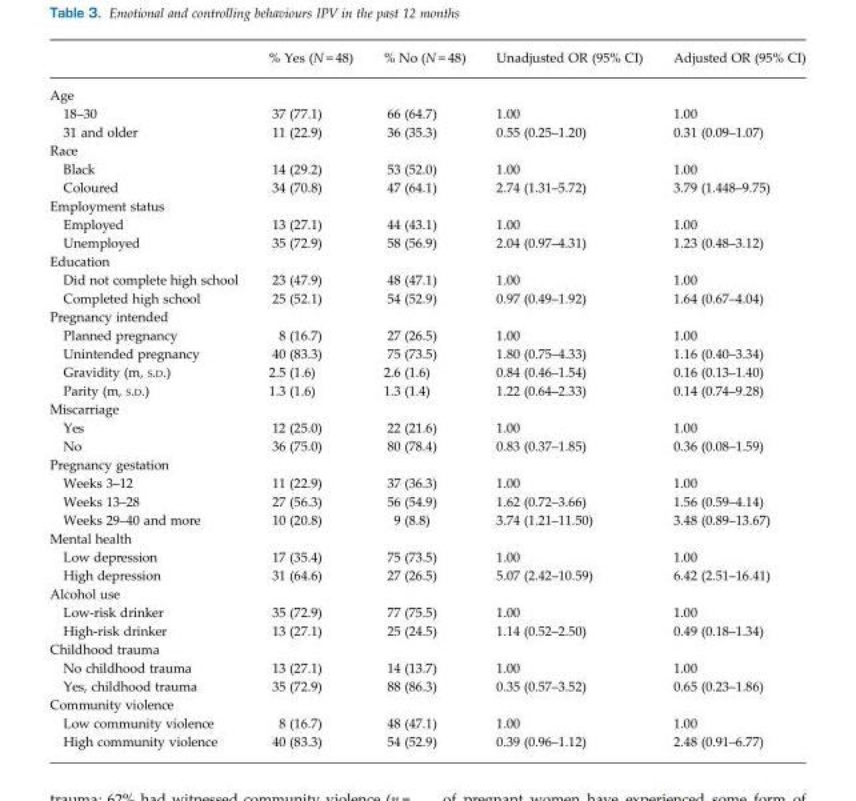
<table><thead><tr><td></td><td>% Yes (N = 48)</td><td>% No (N = 48)</td><td>Unadjusted OR (95% CI)</td><td>Adjusted OR (95% CI)</td></tr></thead><tbody><tr><td colspan="5">Age</td></tr><tr><td>18–30</td><td>37 (77.1)</td><td>66 (64.7)</td><td>1.00</td><td>1.00</td></tr><tr><td>31 and older</td><td>11 (22.9)</td><td>36 (35.3)</td><td>0.55 (0.25–1.20)</td><td>0.31 (0.09–1.07)</td></tr><tr><td colspan="5">Race</td></tr><tr><td>Black</td><td>14 (29.2)</td><td>53 (52.0)</td><td>1.00</td><td>1.00</td></tr><tr><td>Coloured</td><td>34 (70.8)</td><td>47 (64.1)</td><td>2.74 (1.31–5.72)</td><td>3.79 (1.448–9.75)</td></tr><tr><td colspan="5">Employment status</td></tr><tr><td>Employed</td><td>13 (27.1)</td><td>44 (43.1)</td><td>1.00</td><td>1.00</td></tr><tr><td>Unemployed</td><td>35 (72.9)</td><td>58 (56.9)</td><td>2.04 (0.97–4.31)</td><td>1.23 (0.48–3.12)</td></tr><tr><td colspan="5">Education</td></tr><tr><td>Did not complete high school</td><td>23 (47.9)</td><td>48 (47.1)</td><td>1.00</td><td>1.00</td></tr><tr><td>Completed high school</td><td>25 (52.1)</td><td>54 (52.9)</td><td>0.97 (0.49–1.92)</td><td>1.64 (0.67–4.04)</td></tr><tr><td colspan="5">Pregnancy intended</td></tr><tr><td>Planned pregnancy</td><td>8 (16.7)</td><td>27 (26.5)</td><td>1.00</td><td>1.00</td></tr><tr><td>Unintended pregnancy</td><td>40 (83.3)</td><td>75 (73.5)</td><td>1.80 (0.75–4.33)</td><td>1.16 (0.40–3.34)</td></tr><tr><td>Gravidity (m, S.D.)</td><td>2.5 (1.6)</td><td>2.6 (1.6)</td><td>0.84 (0.46–1.54)</td><td>0.16 (0.13–1.40)</td></tr><tr><td>Parity (m, S.D.)</td><td>1.3 (1.6)</td><td>1.3 (1.4)</td><td>1.22 (0.64–2.33)</td><td>0.14 (0.74–9.28)</td></tr><tr><td colspan="5">Miscarriage</td></tr><tr><td>Yes</td><td>12 (25.0)</td><td>22 (21.6)</td><td>1.00</td><td>1.00</td></tr><tr><td>No</td><td>36 (75.0)</td><td>80 (78.4)</td><td>0.83 (0.37–1.85)</td><td>0.36 (0.08–1.59)</td></tr><tr><td colspan="5">Pregnancy gestation</td></tr><tr><td>Weeks 3–12</td><td>11 (22.9)</td><td>37 (36.3)</td><td>1.00</td><td>1.00</td></tr><tr><td>Weeks 13–28</td><td>27 (56.3)</td><td>56 (54.9)</td><td>1.62 (0.72–3.66)</td><td>1.56 (0.59–4.14)</td></tr><tr><td>Weeks 29–40 and more</td><td>10 (20.8)</td><td>9 (8.8)</td><td>3.74 (1.21–11.50)</td><td>3.48 (0.89–13.67)</td></tr><tr><td colspan="5">Mental health</td></tr><tr><td>Low depression</td><td>17 (35.4)</td><td>75 (73.5)</td><td>1.00</td><td>1.00</td></tr><tr><td>High depression</td><td>31 (64.6)</td><td>27 (26.5)</td><td>5.07 (2.42–10.59)</td><td>6.42 (2.51–16.41)</td></tr><tr><td colspan="5">Alcohol use</td></tr><tr><td>Low-risk drinker</td><td>35 (72.9)</td><td>77 (75.5)</td><td>1.00</td><td>1.00</td></tr><tr><td>High-risk drinker</td><td>13 (27.1)</td><td>25 (24.5)</td><td>1.14 (0.52–2.50)</td><td>0.49 (0.18–1.34)</td></tr><tr><td colspan="5">Childhood trauma</td></tr><tr><td>No childhood trauma</td><td>13 (27.1)</td><td>14 (13.7)</td><td>1.00</td><td>1.00</td></tr><tr><td>Yes, childhood trauma</td><td>35 (72.9)</td><td>88 (86.3)</td><td>0.35 (0.57–3.52)</td><td>0.65 (0.23–1.86)</td></tr><tr><td colspan="5">Community violence</td></tr><tr><td>Low community violence</td><td>8 (16.7)</td><td>48 (47.1)</td><td>1.00</td><td>1.00</td></tr><tr><td>High community violence</td><td>40 (83.3)</td><td>54 (52.9)</td><td>0.39 (0.96–1.12)</td><td>2.48 (0.91–6.77)</td></tr></tbody></table>